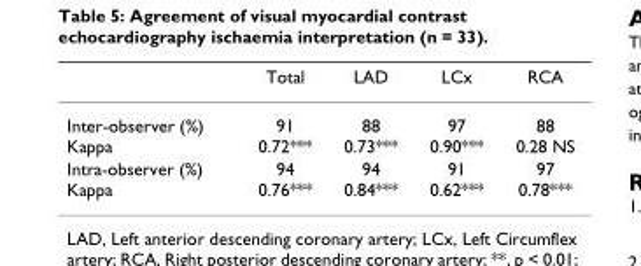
<table><thead><tr><td></td><td>Total</td><td>LAD</td><td>LCx</td><td>RCA</td></tr></thead><tbody><tr><td>Inter-observer (%) Kappa</td><td>91 0.72***</td><td>88 0.73***</td><td>97 0.90***</td><td>88 0.28 NS</td></tr><tr><td>Intra-observer (%) Kappa</td><td>94 0.76***</td><td>94 0.84***</td><td>91 0.62***</td><td>97 0.78***</td></tr></tbody></table>